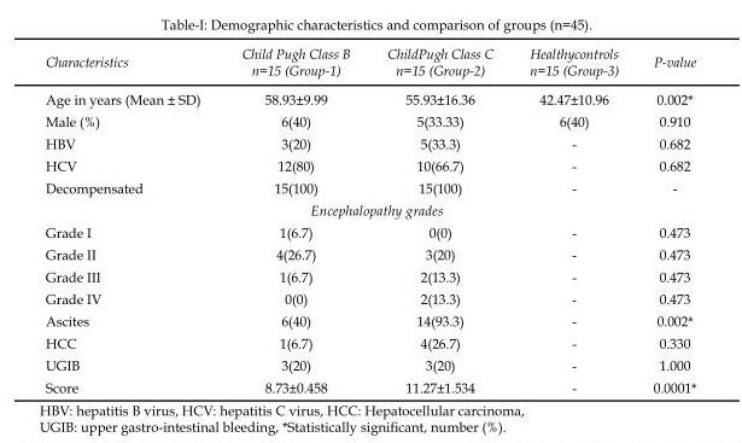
<table><thead><tr><td>Characteristics</td><td>Child Pugh Class B n=15 (Group-1)</td><td>ChildPugh Class C n=15 (Group-2)</td><td>Healthycontrols n=15 (Group-3)</td><td>P-value</td></tr></thead><tbody><tr><td>Age in years (Mean ± SD)</td><td>58.93±9.99</td><td>55.93±16.36</td><td>42.47±10.96</td><td>0.002*</td></tr><tr><td>Male (%)</td><td>6(40)</td><td>5(33.33)</td><td>6(40)</td><td>0.910</td></tr><tr><td>HBV</td><td>3(20)</td><td>5(33.3)</td><td>-</td><td>0.682</td></tr><tr><td>HCV</td><td>12(80)</td><td>10(66.7)</td><td>-</td><td>0.682</td></tr><tr><td>Decompensated</td><td>15(100)</td><td>15(100)</td><td>-</td><td>-</td></tr><tr><td colspan="5">Encephalopathy grades</td></tr><tr><td>Grade I</td><td>1(6.7)</td><td>0(0)</td><td>-</td><td>0.473</td></tr><tr><td>Grade II</td><td>4(26.7)</td><td>3(20)</td><td>-</td><td>0.473</td></tr><tr><td>Grade III</td><td>1(6.7)</td><td>2(13.3)</td><td>-</td><td>0.473</td></tr><tr><td>Grade IV</td><td>0(0)</td><td>2(13.3)</td><td>-</td><td>0.473</td></tr><tr><td>Ascites</td><td>6(40)</td><td>14(93.3)</td><td>-</td><td>0.002*</td></tr><tr><td>HCC</td><td>1(6.7)</td><td>4(26.7)</td><td>-</td><td>0.330</td></tr><tr><td>UGIB</td><td>3(20)</td><td>3(20)</td><td>-</td><td>1.000</td></tr><tr><td>Score</td><td>8.73±0.458</td><td>11.27±1.534</td><td>-</td><td>0.0001*</td></tr></tbody></table>